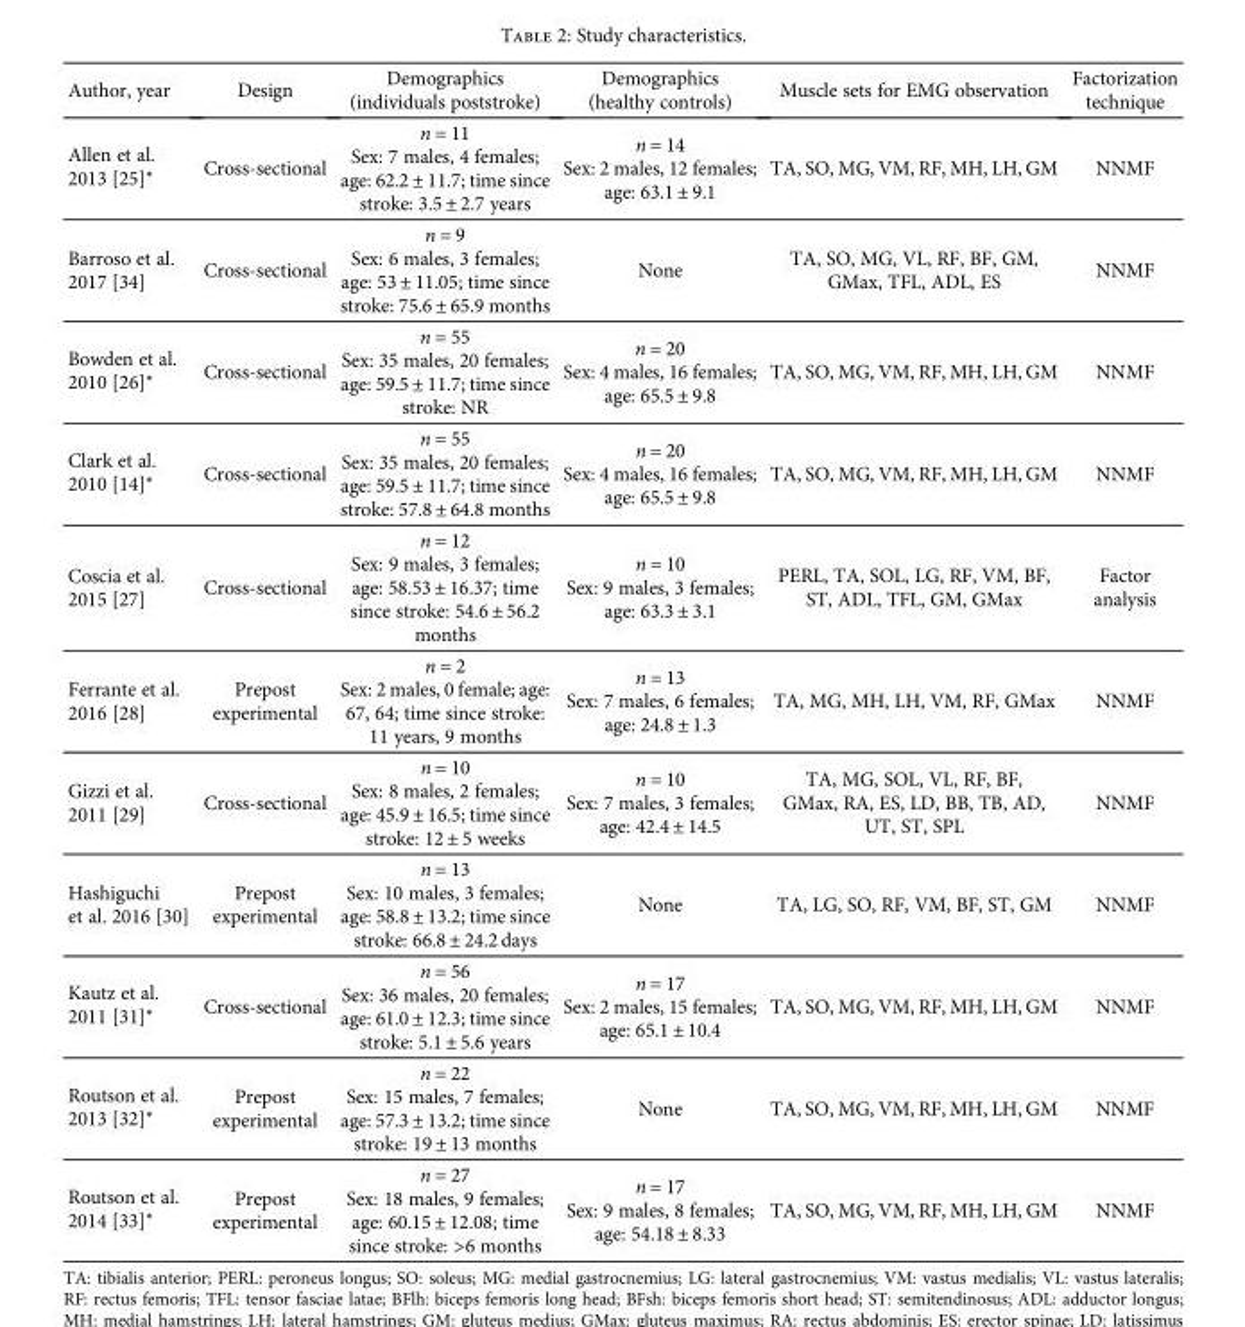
<table><thead><tr><td>Author, year</td><td>Design</td><td>Demographics (individuals poststroke)</td><td>Demographics (healthy controls)</td><td>Muscle sets for EMG observation</td><td>Factorization technique</td></tr></thead><tbody><tr><td>Allen et al. 2013 [25]∗</td><td>Cross-sectional</td><td>n = 11 Sex: 7 males, 4 females; age: 62.2 ± 11.7; time since stroke: 3.5 ± 2.7 years</td><td>n = 14 Sex: 2 males, 12 females; age: 63.1 ± 9.1</td><td>TA, SO, MG, VM, RF, MH, LH, GM</td><td>NNMF</td></tr><tr><td>Barroso et al. 2017 [34]</td><td>Cross-sectional</td><td>n = 9 Sex: 6 males, 3 females; age: 53 ± 11.05; time since stroke: 75.6 ± 65.9 months</td><td>None</td><td>TA, SO, MG, VL, RF, BF, GM, GMax, TFL, ADL, ES</td><td>NNMF</td></tr><tr><td>Bowden et al. 2010 [26]∗</td><td>Cross-sectional</td><td>n = 55 Sex: 35 males, 20 females; age: 59.5 ± 11.7; time since stroke: NR</td><td>n = 20 Sex: 4 males, 16 females; age: 65.5 ± 9.8</td><td>TA, SO, MG, VM, RF, MH, LH, GM</td><td>NNMF</td></tr><tr><td>Clark et al. 2010 [14]∗</td><td>Cross-sectional</td><td>n = 55 Sex: 35 males, 20 females; age: 59.5 ± 11.7; time since stroke: 57.8 ± 64.8 months</td><td>n = 20 Sex: 4 males, 16 females; age: 65.5 ± 9.8</td><td>TA, SO, MG, VM, RF, MH, LH, GM</td><td>NNMF</td></tr><tr><td>Coscia et al. 2015 [27]</td><td>Cross-sectional</td><td>n = 12 Sex: 9 males, 3 females; age: 58.53 ± 16.37; time since stroke: 54.6 ± 56.2 months</td><td>n = 10 Sex: 9 males, 3 females; age: 63.3 ± 3.1</td><td>PERL, TA, SOL, LG, RF, VM, BF, ST, ADL, TFL, GM, GMax</td><td>Factor analysis</td></tr><tr><td>Ferrante et al. 2016 [28]</td><td>Prepost experimental</td><td>n = 2 Sex: 2 males, 0 female; age: 67, 64; time since stroke: 11 years, 9 months</td><td>n = 13 Sex: 7 males, 6 females; age: 24.8 ± 1.3</td><td>TA, MG, MH, LH, VM, RF, GMax</td><td>NNMF</td></tr><tr><td>Gizzi et al. 2011 [29]</td><td>Cross-sectional</td><td>n = 10 Sex: 8 males, 2 females; age: 45.9 ± 16.5; time since stroke: 12 ± 5 weeks</td><td>n = 10 Sex: 7 males, 3 females; age: 42.4 ± 14.5</td><td>TA, MG, SOL, VL, RF, BF, GMax, RA, ES, LD, BB, TB, AD, UT, ST, SPL</td><td>NNMF</td></tr><tr><td>Hashiguchi et al. 2016 [30]</td><td>Prepost experimental</td><td>n = 13 Sex: 10 males, 3 females; age: 58.8 ± 13.2; time since stroke: 66.8 ± 24.2 days</td><td>None</td><td>TA, LG, SO, RF, VM, BF, ST, GM</td><td>NNMF</td></tr><tr><td>Kautz et al. 2011 [31]∗</td><td>Cross-sectional</td><td>n = 56 Sex: 36 males, 20 females; age: 61.0 ± 12.3; time since stroke: 5.1 ± 5.6 years</td><td>n = 17 Sex: 2 males, 15 females; age: 65.1 ± 10.4</td><td>TA, SO, MG, VM, RF, MH, LH, GM</td><td>NNMF</td></tr><tr><td>Routson et al. 2013 [32]∗</td><td>Prepost experimental</td><td>n = 22 Sex: 15 males, 7 females; age: 57.3 ± 13.2; time since stroke: 19 ± 13 months</td><td>None</td><td>TA, SO, MG, VM, RF, MH, LH, GM</td><td>NNMF</td></tr><tr><td>Routson et al. 2014 [33]∗</td><td>Prepost experimental</td><td>n = 27 Sex: 18 males, 9 females; age: 60.15 ± 12.08; time since stroke: &gt;6 months</td><td>n = 17 Sex: 9 males, 8 females; age: 54.18 ± 8.33</td><td>TA, SO, MG, VM, RF, MH, LH, GM</td><td>NNMF</td></tr></tbody></table>